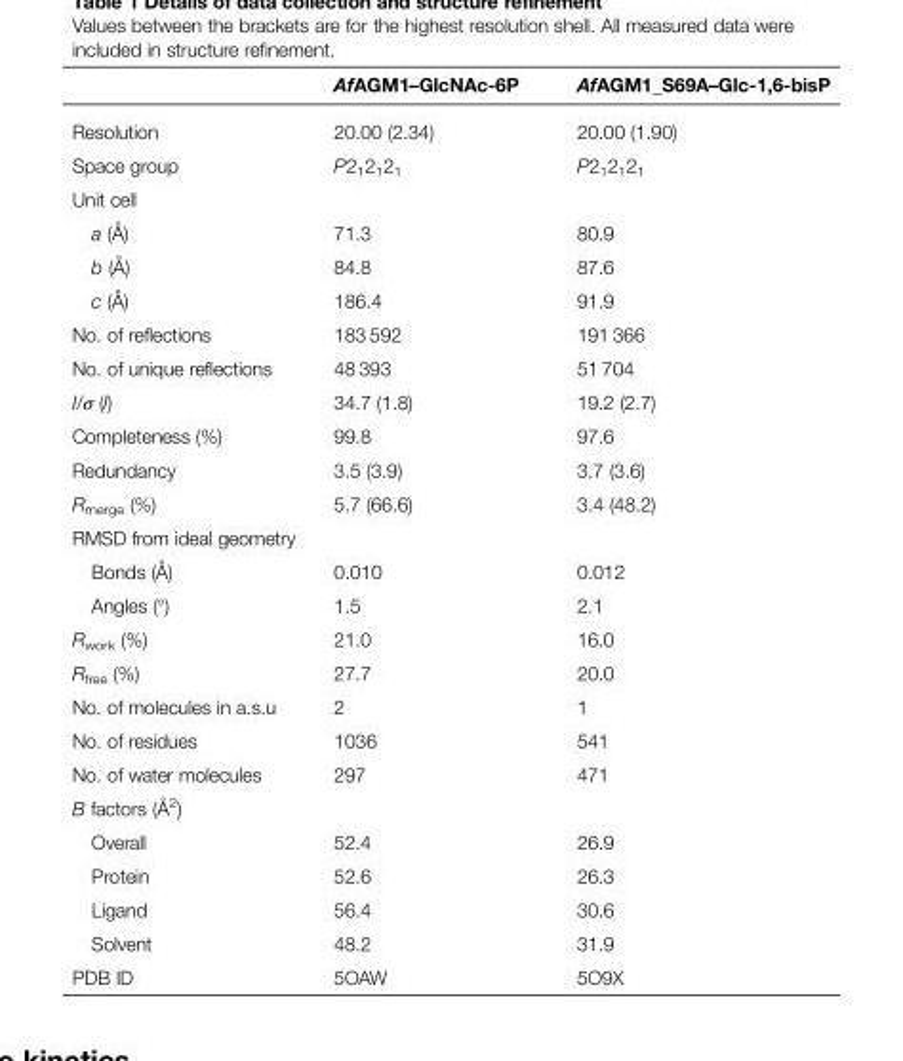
<table><thead><tr><td></td><td>AfAGM1–GlcNAc-6P</td><td>AfAGM1_S69A–Glc-1,6-bisP</td></tr></thead><tbody><tr><td>Resolution</td><td>20.00 (2.34)</td><td>20.00 (1.90)</td></tr><tr><td>Space group</td><td>P2<sub>1</sub>2<sub>1</sub>2<sub>1</sub></td><td>P2<sub>1</sub>2<sub>1</sub>2<sub>1</sub></td></tr><tr><td colspan="3">Unit cell</td></tr><tr><td>a (Å)</td><td>71.3</td><td>80.9</td></tr><tr><td>b (Å)</td><td>84.8</td><td>87.6</td></tr><tr><td>c (Å)</td><td>186.4</td><td>91.9</td></tr><tr><td>No. of reflections</td><td>183 592</td><td>191 366</td></tr><tr><td>No. of unique reflections</td><td>48 393</td><td>51 704</td></tr><tr><td>I/σ (I)</td><td>34.7 (1.8)</td><td>19.2 (2.7)</td></tr><tr><td>Completeness (%)</td><td>99.8</td><td>97.6</td></tr><tr><td>Redundancy</td><td>3.5 (3.9)</td><td>3.7 (3.6)</td></tr><tr><td>R<sub>merge</sub> (%)</td><td>5.7 (66.6)</td><td>3.4 (48.2)</td></tr><tr><td colspan="3">RMSD from ideal geometry</td></tr><tr><td>Bonds (Å)</td><td>0.010</td><td>0.012</td></tr><tr><td>Angles (°)</td><td>1.5</td><td>2.1</td></tr><tr><td>R<sub>work</sub> (%)</td><td>21.0</td><td>16.0</td></tr><tr><td>R<sub>free</sub> (%)</td><td>27.7</td><td>20.0</td></tr><tr><td>No. of molecules in a.s.u</td><td>2</td><td>1</td></tr><tr><td>No. of residues</td><td>1036</td><td>541</td></tr><tr><td>No. of water molecules</td><td>297</td><td>471</td></tr><tr><td colspan="3">B factors (Å<sup>2</sup>)</td></tr><tr><td>Overall</td><td>52.4</td><td>26.9</td></tr><tr><td>Protein</td><td>52.6</td><td>26.3</td></tr><tr><td>Ligand</td><td>56.4</td><td>30.6</td></tr><tr><td>Solvent</td><td>48.2</td><td>31.9</td></tr><tr><td>PDB ID</td><td>5OAW</td><td>5O9X</td></tr></tbody></table>